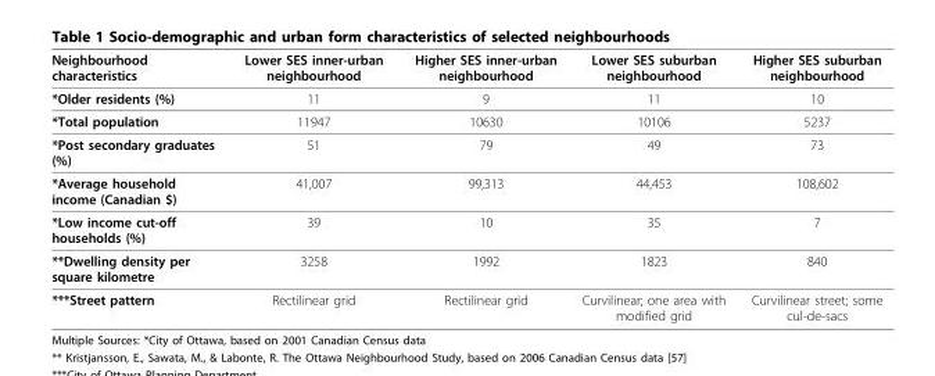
<table><thead><tr><td>Neighbourhood characteristics</td><td>Lower SES inner-urban neighbourhood</td><td>Higher SES inner-urban neighbourhood</td><td>Lower SES suburban neighbourhood</td><td>Higher SES suburban neighbourhood</td></tr></thead><tbody><tr><td>*Older residents (%)</td><td>11</td><td>9</td><td>11</td><td>10</td></tr><tr><td>*Total population</td><td>11947</td><td>10630</td><td>10106</td><td>5237</td></tr><tr><td>*Post secondary graduates (%)</td><td>51</td><td>79</td><td>49</td><td>73</td></tr><tr><td>*Average household income (Canadian $)</td><td>41,007</td><td>99,313</td><td>44,453</td><td>108,602</td></tr><tr><td>*Low income cut-off households (%)</td><td>39</td><td>10</td><td>35</td><td>7</td></tr><tr><td>**Dwelling density per square kilometre</td><td>3258</td><td>1992</td><td>1823</td><td>840</td></tr><tr><td>***Street pattern</td><td>Rectilinear grid</td><td>Rectilinear grid</td><td>Curvilinear; one area with modified grid</td><td>Curvilinear street; some cul-de-sacs</td></tr></tbody></table>